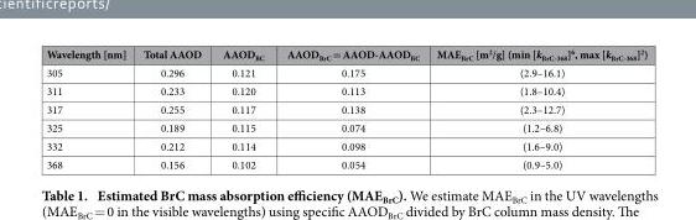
<table><thead><tr><td>Wavelength [nm]</td><td>Total AAOD</td><td>AAOD<sub>BC</sub></td><td>AAOD<sub>BrC</sub> = AAOD-AAOD<sub>BC</sub></td><td>MAE<sub>BrC</sub> [m<sup>2</sup>/g] (min [k<sub>BrC-368</sub>]<sup>6</sup>, max [k<sub>BrC-368</sub>]<sup>2</sup>)</td></tr></thead><tbody><tr><td>305</td><td>0.296</td><td>0.121</td><td>0.175</td><td>(2.9–16.1)</td></tr><tr><td>311</td><td>0.233</td><td>0.120</td><td>0.113</td><td>(1.8–10.4)</td></tr><tr><td>317</td><td>0.255</td><td>0.117</td><td>0.138</td><td>(2.3–12.7)</td></tr><tr><td>325</td><td>0.189</td><td>0.115</td><td>0.074</td><td>(1.2–6.8)</td></tr><tr><td>332</td><td>0.212</td><td>0.114</td><td>0.098</td><td>(1.6–9.0)</td></tr><tr><td>368</td><td>0.156</td><td>0.102</td><td>0.054</td><td>(0.9–5.0)</td></tr></tbody></table>